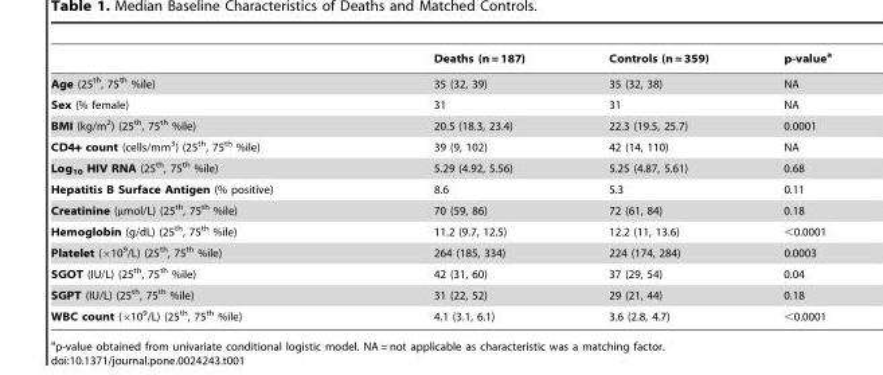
<table><thead><tr><td></td><td>Deaths (n = 187)</td><td>Controls (n = 359)</td><td>p-value<sup>a</sup></td></tr></thead><tbody><tr><td>Age (25<sup>th</sup>, 75<sup>th</sup> %ile)</td><td>35 (32, 39)</td><td>35 (32, 38)</td><td>NA</td></tr><tr><td>Sex (% female)</td><td>31</td><td>31</td><td>NA</td></tr><tr><td>BMI (kg/m<sup>2</sup>) (25<sup>th</sup>, 75<sup>th</sup> %ile)</td><td>20.5 (18.3, 23.4)</td><td>22.3 (19.5, 25.7)</td><td>0.0001</td></tr><tr><td>CD4+ count (cells/mm<sup>3</sup>) (25<sup>th</sup>, 75<sup>th</sup> %ile)</td><td>39 (9, 102)</td><td>42 (14, 110)</td><td>NA</td></tr><tr><td>Log<sub>10</sub> HIV RNA (25<sup>th</sup>, 75<sup>th</sup> %ile)</td><td>5.29 (4.92, 5.56)</td><td>5.25 (4.87, 5.61)</td><td>0.68</td></tr><tr><td>Hepatitis B Surface Antigen (% positive)</td><td>8.6</td><td>5.3</td><td>0.11</td></tr><tr><td>Creatinine (µmol/L) (25<sup>th</sup>, 75<sup>th</sup> %ile)</td><td>70 (59, 86)</td><td>72 (61, 84)</td><td>0.18</td></tr><tr><td>Hemoglobin (g/dL) (25<sup>th</sup>, 75<sup>th</sup> %ile)</td><td>11.2 (9.7, 12.5)</td><td>12.2 (11, 13.6)</td><td>&lt;0.0001</td></tr><tr><td>Platelet (×10<sup>9</sup>/L) (25<sup>th</sup>, 75<sup>th</sup> %ile)</td><td>264 (185, 334)</td><td>224 (174, 284)</td><td>0.0003</td></tr><tr><td>SGOT (IU/L) (25<sup>th</sup>, 75<sup>th</sup> %ile)</td><td>42 (31, 60)</td><td>37 (29, 54)</td><td>0.04</td></tr><tr><td>SGPT (IU/L) (25<sup>th</sup>, 75<sup>th</sup> %ile)</td><td>31 (22, 52)</td><td>29 (21, 44)</td><td>0.18</td></tr><tr><td>WBC count (×10<sup>9</sup>/L) (25<sup>th</sup>, 75<sup>th</sup> %ile)</td><td>4.1 (3.1, 6.1)</td><td>3.6 (2.8, 4.7)</td><td>&lt;0.0001</td></tr></tbody></table>